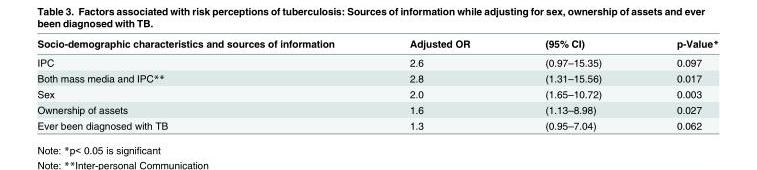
<table><thead><tr><td>Socio-demographic characteristics and sources of information</td><td>Adjusted OR</td><td>(95% CI)</td><td>p-Value*</td></tr></thead><tbody><tr><td>IPC</td><td>2.6</td><td>(0.97–15.35)</td><td>0.097</td></tr><tr><td>Both mass media and IPC**</td><td>2.8</td><td>(1.31–15.56)</td><td>0.017</td></tr><tr><td>Sex</td><td>2.0</td><td>(1.65–10.72)</td><td>0.003</td></tr><tr><td>Ownership of assets</td><td>1.6</td><td>(1.13–8.98)</td><td>0.027</td></tr><tr><td>Ever been diagnosed with TB</td><td>1.3</td><td>(0.95–7.04)</td><td>0.062</td></tr></tbody></table>